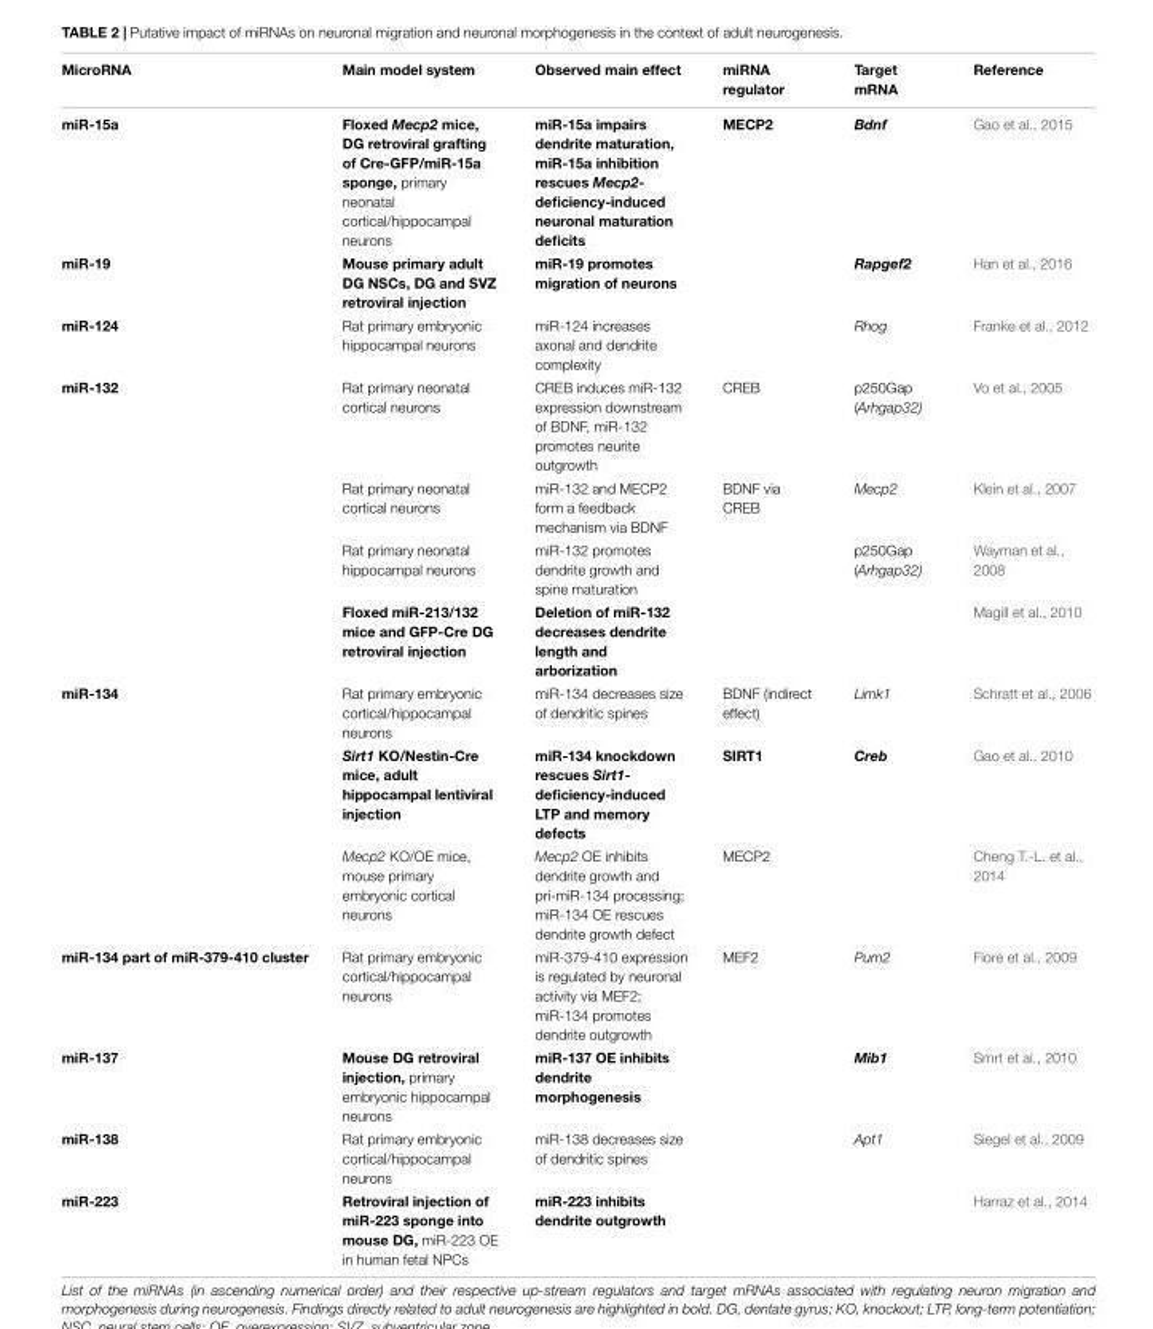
<table><thead><tr><td>MicroRNA</td><td>Main model system</td><td>Observed main effect</td><td>miRNA regulator</td><td>Target mRNA</td><td>Reference</td></tr></thead><tbody><tr><td>miR-15a</td><td>Floxed Mecp2 mice, DG retroviral grafting of Cre-GFP/miR-15a sponge, primary neonatal cortical/hippocampal neurons</td><td>miR-15a impairs dendrite maturation, miR-15a inhibition rescues Mecp2- deficiency-induced neuronal maturation deficits</td><td>MECP2</td><td>Bdnf</td><td>Gao et al., 2015</td></tr><tr><td>miR-19</td><td>Mouse primary adult DG NSCs, DG and SVZ retroviral injection</td><td>miR-19 promotes migration of neurons</td><td></td><td>Rapgef2</td><td>Han et al., 2016</td></tr><tr><td>miR-124</td><td>Rat primary embryonic hippocampal neurons</td><td>miR-124 increases axonal and dendrite complexity</td><td></td><td>Rhog</td><td>Franke et al., 2012</td></tr><tr><td rowspan="4">miR-132</td><td>Rat primary neonatal cortical neurons</td><td>CREB induces miR-132 expression downstream of BDNF, miR-132 promotes neurite outgrowth</td><td>CREB</td><td>p250Gap (Arhgap32)</td><td>Vo et al., 2005</td></tr><tr><td>Rat primary neonatal cortical neurons</td><td>miR-132 and MECP2 form a feedback mechanism via BDNF</td><td>BDNF via CREB</td><td>Mecp2</td><td>Klein et al., 2007</td></tr><tr><td>Rat primary neonatal hippocampal neurons</td><td>miR-132 promotes dendrite growth and spine maturation</td><td></td><td>p250Gap (Arhgap32)</td><td>Wayman et al., 2008</td></tr><tr><td>Floxed miR-213/132 mice and GFP-Cre DG retroviral injection</td><td>Deletion of miR-132 decreases dendrite length and arborization</td><td></td><td></td><td>Magill et al., 2010</td></tr><tr><td rowspan="3">miR-134</td><td>Rat primary embryonic cortical/hippocampal neurons</td><td>miR-134 decreases size of dendritic spines</td><td>BDNF (indirect effect)</td><td>Limk1</td><td>Schratt et al., 2006</td></tr><tr><td>Sirt1 KO/Nestin-Cre mice, adult hippocampal lentiviral injection</td><td>miR-134 knockdown rescues Sirt1- deficiency-induced LTP and memory defects</td><td>SIRT1</td><td>Creb</td><td>Gao et al., 2010</td></tr><tr><td>Mecp2 KO/OE mice, mouse primary embryonic cortical neurons</td><td>Mecp2 OE inhibits dendrite growth and pri-miR-134 processing; miR-134 OE rescues dendrite growth defect</td><td>MECP2</td><td></td><td>Cheng T.-L. et al., 2014</td></tr><tr><td>miR-134 part of miR-379-410 cluster</td><td>Rat primary embryonic cortical/hippocampal neurons</td><td>miR-379-410 expression is regulated by neuronal activity via MEF2; miR-134 promotes dendrite outgrowth</td><td>MEF2</td><td>Pum2</td><td>Fiore et al., 2009</td></tr><tr><td>miR-137</td><td>Mouse DG retroviral injection, primary embryonic hippocampal neurons</td><td>miR-137 OE inhibits dendrite morphogenesis</td><td></td><td>Mib1</td><td>Smrt et al., 2010</td></tr><tr><td>miR-138</td><td>Rat primary embryonic cortical/hippocampal neurons</td><td>miR-138 decreases size of dendritic spines</td><td></td><td>Apt1</td><td>Siegel et al., 2009</td></tr><tr><td>miR-223</td><td>Retroviral injection of miR-223 sponge into mouse DG, miR-223 OE in human fetal NPCs</td><td>miR-223 inhibits dendrite outgrowth</td><td></td><td></td><td>Harraz et al., 2014</td></tr></tbody></table>